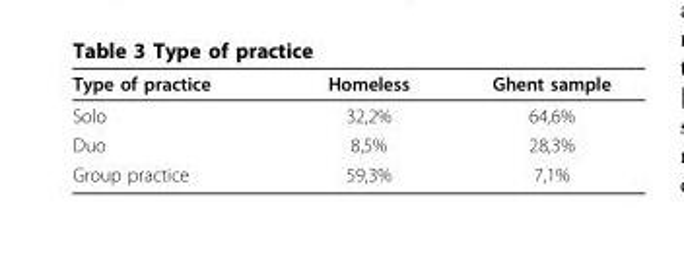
<table><thead><tr><td>Type of practice</td><td>Homeless</td><td>Ghent sample</td></tr></thead><tbody><tr><td>Solo</td><td>32,2%</td><td>64,6%</td></tr><tr><td>Duo</td><td>8,5%</td><td>28,3%</td></tr><tr><td>Group practice</td><td>59,3%</td><td>7,1%</td></tr></tbody></table>